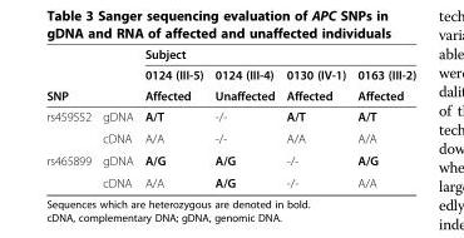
<table><thead><tr><td rowspan="3">SNP</td><td rowspan="3"></td><td colspan="4">Subject</td></tr><tr><td rowspan="2">0124 (III-5) Affected</td><td rowspan="2">0124 (III-4) Unaffected</td><td rowspan="2">0130 (IV-1) Affected</td><td rowspan="2">0163 (III-2) Affected</td></tr><tr></tr></thead><tbody><tr><td rowspan="2">rs459552</td><td>gDNA</td><td>A/T</td><td>-/-</td><td>A/T</td><td>A/T</td></tr><tr><td>cDNA</td><td>A/A</td><td>-/-</td><td>A/A</td><td>A/A</td></tr><tr><td rowspan="2">rs465899</td><td>gDNA</td><td>A/G</td><td>A/G</td><td>-/-</td><td>A/G</td></tr><tr><td>cDNA</td><td>A/A</td><td>A/G</td><td>-/-</td><td>A/A</td></tr></tbody></table>